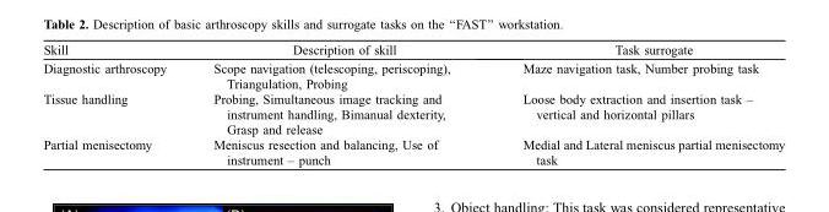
<table><thead><tr><td>Skill</td><td>Description of skill</td><td>Task surrogate</td></tr></thead><tbody><tr><td>Diagnostic arthroscopy</td><td>Scope navigation (telescoping, periscoping), Triangulation, Probing</td><td>Maze navigation task, Number probing task</td></tr><tr><td>Tissue handling</td><td>Probing, Simultaneous image tracking and instrument handling, Bimanual dexterity, Grasp and release</td><td>Loose body extraction and insertion task – vertical and horizontal pillars</td></tr><tr><td>Partial menisectomy</td><td>Meniscus resection and balancing, Use of instrument – punch</td><td>Medial and Lateral meniscus partial menisectomy task</td></tr></tbody></table>